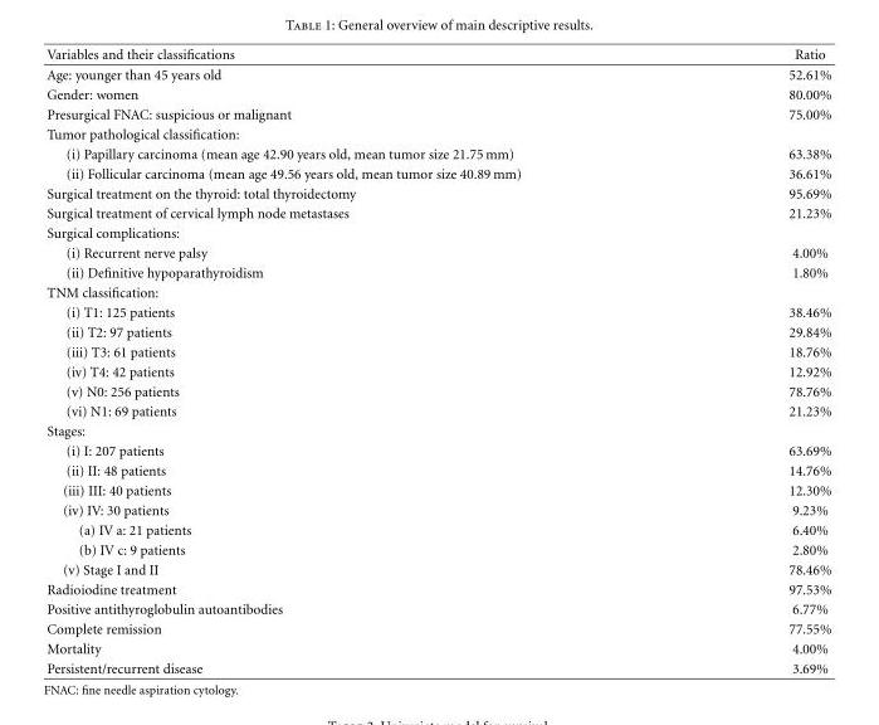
<table><thead><tr><td>Variables and their classifications</td><td>Ratio</td></tr></thead><tbody><tr><td>Age: younger than 45 years old</td><td>52.61%</td></tr><tr><td>Gender: women</td><td>80.00%</td></tr><tr><td>Presurgical FNAC: suspicious or malignant</td><td>75.00%</td></tr><tr><td colspan="2">Tumor pathological classification:</td></tr><tr><td>(i) Papillary carcinoma (mean age 42.90 years old, mean tumor size 21.75 mm)</td><td>63.38%</td></tr><tr><td>(ii) Follicular carcinoma (mean age 49.56 years old, mean tumor size 40.89 mm)</td><td>36.61%</td></tr><tr><td>Surgical treatment on the thyroid: total thyroidectomy</td><td>95.69%</td></tr><tr><td>Surgical treatment of cervical lymph node metastases</td><td>21.23%</td></tr><tr><td colspan="2">Surgical complications:</td></tr><tr><td>(i) Recurrent nerve palsy</td><td>4.00%</td></tr><tr><td>(ii) Definitive hypoparathyroidism</td><td>1.80%</td></tr><tr><td colspan="2">TNM classification:</td></tr><tr><td>(i) T1: 125 patients</td><td>38.46%</td></tr><tr><td>(ii) T2: 97 patients</td><td>29.84%</td></tr><tr><td>(iii) T3: 61 patients</td><td>18.76%</td></tr><tr><td>(iv) T4: 42 patients</td><td>12.92%</td></tr><tr><td>(v) N0: 256 patients</td><td>78.76%</td></tr><tr><td>(vi) N1: 69 patients</td><td>21.23%</td></tr><tr><td colspan="2">Stages:</td></tr><tr><td>(i) I: 207 patients</td><td>63.69%</td></tr><tr><td>(ii) II: 48 patients</td><td>14.76%</td></tr><tr><td>(iii) III: 40 patients</td><td>12.30%</td></tr><tr><td>(iv) IV: 30 patients</td><td>9.23%</td></tr><tr><td>(a) IV a: 21 patients</td><td>6.40%</td></tr><tr><td>(b) IV c: 9 patients</td><td>2.80%</td></tr><tr><td>(v) Stage I and II</td><td>78.46%</td></tr><tr><td>Radioiodine treatment</td><td>97.53%</td></tr><tr><td>Positive antithyroglobulin autoantibodies</td><td>6.77%</td></tr><tr><td>Complete remission</td><td>77.55%</td></tr><tr><td>Mortality</td><td>4.00%</td></tr><tr><td>Persistent/recurrent disease</td><td>3.69%</td></tr></tbody></table>